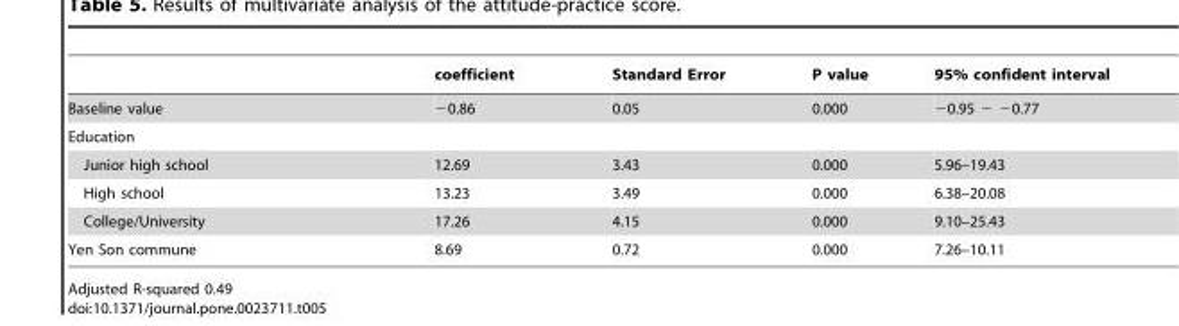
<table><thead><tr><td></td><td>coefficient</td><td>Standard Error</td><td>P value</td><td>95% confident interval</td></tr></thead><tbody><tr><td>Baseline value</td><td>−0.86</td><td>0.05</td><td>0.000</td><td>−0.95 − −0.77</td></tr><tr><td colspan="5">Education</td></tr><tr><td>Junior high school</td><td>12.69</td><td>3.43</td><td>0.000</td><td>5.96–19.43</td></tr><tr><td>High school</td><td>13.23</td><td>3.49</td><td>0.000</td><td>6.38–20.08</td></tr><tr><td>College/University</td><td>17.26</td><td>4.15</td><td>0.000</td><td>9.10–25.43</td></tr><tr><td>Yen Son commune</td><td>8.69</td><td>0.72</td><td>0.000</td><td>7.26–10.11</td></tr></tbody></table>